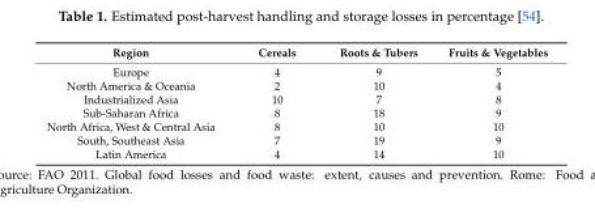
<table><thead><tr><td>Region</td><td>Cereals</td><td>Roots &amp; Tubers</td><td>Fruits &amp; Vegetables</td></tr></thead><tbody><tr><td>Europe</td><td>4</td><td>9</td><td>5</td></tr><tr><td>North America &amp; Oceania</td><td>2</td><td>10</td><td>4</td></tr><tr><td>Industrialized Asia</td><td>10</td><td>7</td><td>8</td></tr><tr><td>Sub-Saharan Africa</td><td>8</td><td>18</td><td>9</td></tr><tr><td>North Africa, West &amp; Central Asia</td><td>8</td><td>10</td><td>10</td></tr><tr><td>South, Southeast Asia</td><td>7</td><td>19</td><td>9</td></tr><tr><td>Latin America</td><td>4</td><td>14</td><td>10</td></tr></tbody></table>